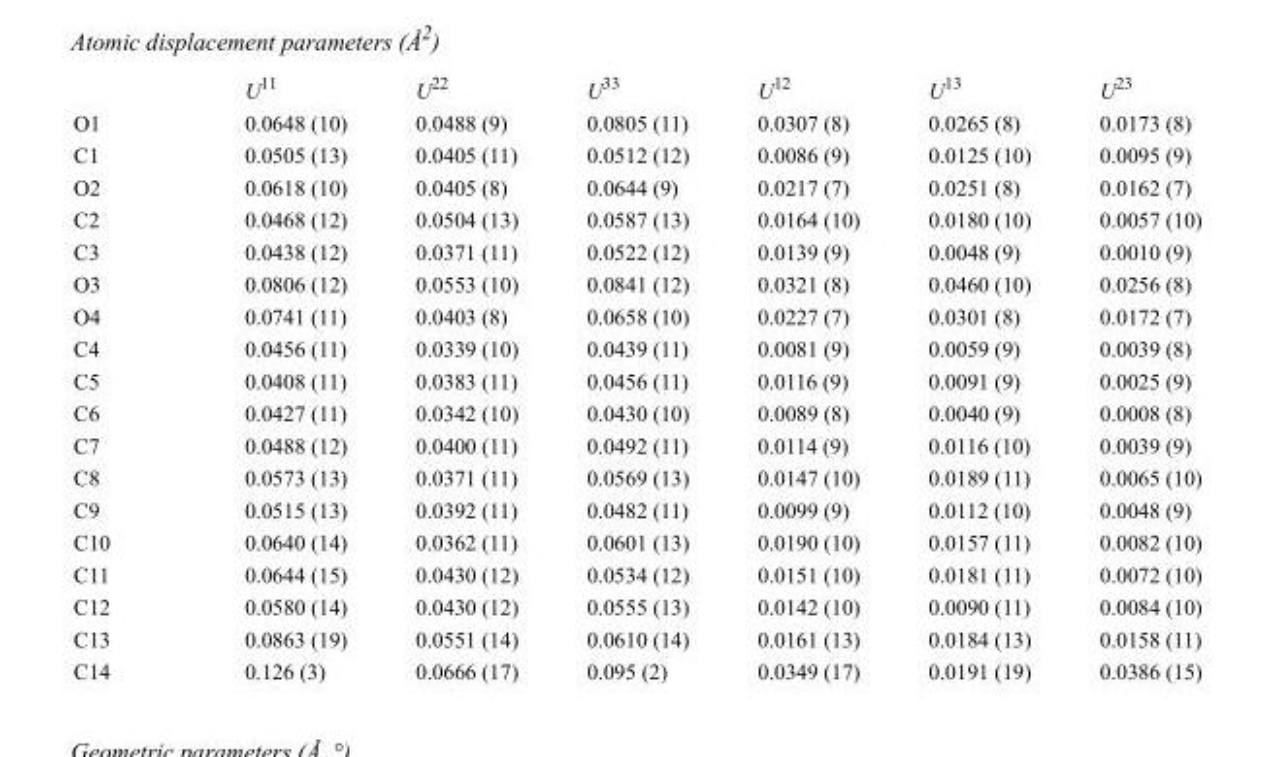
<table><thead><tr><td></td><td>U<sup>11</sup></td><td>U<sup>22</sup></td><td>U<sup>33</sup></td><td>U<sup>12</sup></td><td>U<sup>13</sup></td><td>U<sup>23</sup></td></tr></thead><tbody><tr><td>O1</td><td>0.0648 (10)</td><td>0.0488 (9)</td><td>0.0805 (11)</td><td>0.0307 (8)</td><td>0.0265 (8)</td><td>0.0173 (8)</td></tr><tr><td>C1</td><td>0.0505 (13)</td><td>0.0405 (11)</td><td>0.0512 (12)</td><td>0.0086 (9)</td><td>0.0125 (10)</td><td>0.0095 (9)</td></tr><tr><td>O2</td><td>0.0618 (10)</td><td>0.0405 (8)</td><td>0.0644 (9)</td><td>0.0217 (7)</td><td>0.0251 (8)</td><td>0.0162 (7)</td></tr><tr><td>C2</td><td>0.0468 (12)</td><td>0.0504 (13)</td><td>0.0587 (13)</td><td>0.0164 (10)</td><td>0.0180 (10)</td><td>0.0057 (10)</td></tr><tr><td>C3</td><td>0.0438 (12)</td><td>0.0371 (11)</td><td>0.0522 (12)</td><td>0.0139 (9)</td><td>0.0048 (9)</td><td>0.0010 (9)</td></tr><tr><td>O3</td><td>0.0806 (12)</td><td>0.0553 (10)</td><td>0.0841 (12)</td><td>0.0321 (8)</td><td>0.0460 (10)</td><td>0.0256 (8)</td></tr><tr><td>O4</td><td>0.0741 (11)</td><td>0.0403 (8)</td><td>0.0658 (10)</td><td>0.0227 (7)</td><td>0.0301 (8)</td><td>0.0172 (7)</td></tr><tr><td>C4</td><td>0.0456 (11)</td><td>0.0339 (10)</td><td>0.0439 (11)</td><td>0.0081 (9)</td><td>0.0059 (9)</td><td>0.0039 (8)</td></tr><tr><td>C5</td><td>0.0408 (11)</td><td>0.0383 (11)</td><td>0.0456 (11)</td><td>0.0116 (9)</td><td>0.0091 (9)</td><td>0.0025 (9)</td></tr><tr><td>C6</td><td>0.0427 (11)</td><td>0.0342 (10)</td><td>0.0430 (10)</td><td>0.0089 (8)</td><td>0.0040 (9)</td><td>0.0008 (8)</td></tr><tr><td>C7</td><td>0.0488 (12)</td><td>0.0400 (11)</td><td>0.0492 (11)</td><td>0.0114 (9)</td><td>0.0116 (10)</td><td>0.0039 (9)</td></tr><tr><td>C8</td><td>0.0573 (13)</td><td>0.0371 (11)</td><td>0.0569 (13)</td><td>0.0147 (10)</td><td>0.0189 (11)</td><td>0.0065 (10)</td></tr><tr><td>C9</td><td>0.0515 (13)</td><td>0.0392 (11)</td><td>0.0482 (11)</td><td>0.0099 (9)</td><td>0.0112 (10)</td><td>0.0048 (9)</td></tr><tr><td>C10</td><td>0.0640 (14)</td><td>0.0362 (11)</td><td>0.0601 (13)</td><td>0.0190 (10)</td><td>0.0157 (11)</td><td>0.0082 (10)</td></tr><tr><td>C11</td><td>0.0644 (15)</td><td>0.0430 (12)</td><td>0.0534 (12)</td><td>0.0151 (10)</td><td>0.0181 (11)</td><td>0.0072 (10)</td></tr><tr><td>C12</td><td>0.0580 (14)</td><td>0.0430 (12)</td><td>0.0555 (13)</td><td>0.0142 (10)</td><td>0.0090 (11)</td><td>0.0084 (10)</td></tr><tr><td>C13</td><td>0.0863 (19)</td><td>0.0551 (14)</td><td>0.0610 (14)</td><td>0.0161 (13)</td><td>0.0184 (13)</td><td>0.0158 (11)</td></tr><tr><td>C14</td><td>0.126 (3)</td><td>0.0666 (17)</td><td>0.095 (2)</td><td>0.0349 (17)</td><td>0.0191 (19)</td><td>0.0386 (15)</td></tr></tbody></table>